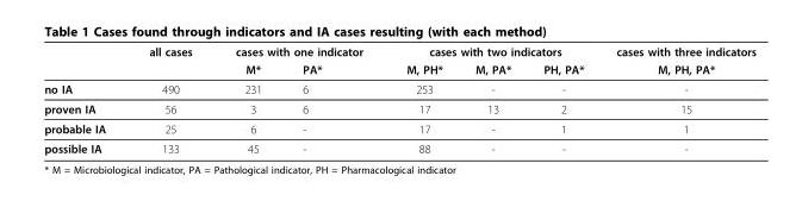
<table><thead><tr><td rowspan="2"></td><td rowspan="2">all cases</td><td colspan="2">cases with one indicator</td><td colspan="3">cases with two indicators</td><td rowspan="2">cases with three indicators M, PH, PA*</td></tr><tr><td>M*</td><td>PA*</td><td>M, PH*</td><td>M, PA*</td><td>PH, PA*</td></tr></thead><tbody><tr><td>no IA</td><td>490</td><td>231</td><td>6</td><td>253</td><td>-</td><td>-</td><td>-</td></tr><tr><td>proven IA</td><td>56</td><td>3</td><td>6</td><td>17</td><td>13</td><td>2</td><td>15</td></tr><tr><td>probable IA</td><td>25</td><td>6</td><td>-</td><td>17</td><td>-</td><td>1</td><td>1</td></tr><tr><td>possible IA</td><td>133</td><td>45</td><td>-</td><td>88</td><td>-</td><td>-</td><td>-</td></tr></tbody></table>